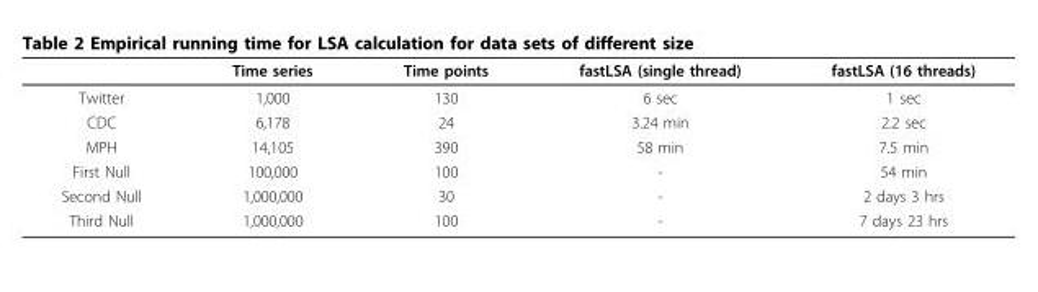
<table><thead><tr><td></td><td>Time series</td><td>Time points</td><td>fastLSA (single thread)</td><td>fastLSA (16 threads)</td></tr></thead><tbody><tr><td>Twitter</td><td>1,000</td><td>130</td><td>6 sec</td><td>1 sec</td></tr><tr><td>CDC</td><td>6,178</td><td>24</td><td>3.24 min</td><td>2.2 sec</td></tr><tr><td>MPH</td><td>14,105</td><td>390</td><td>58 min</td><td>7.5 min</td></tr><tr><td>First Null</td><td>100,000</td><td>100</td><td>-</td><td>54 min</td></tr><tr><td>Second Null</td><td>1,000,000</td><td>30</td><td>-</td><td>2 days 3 hrs</td></tr><tr><td>Third Null</td><td>1,000,000</td><td>100</td><td>-</td><td>7 days 23 hrs</td></tr></tbody></table>